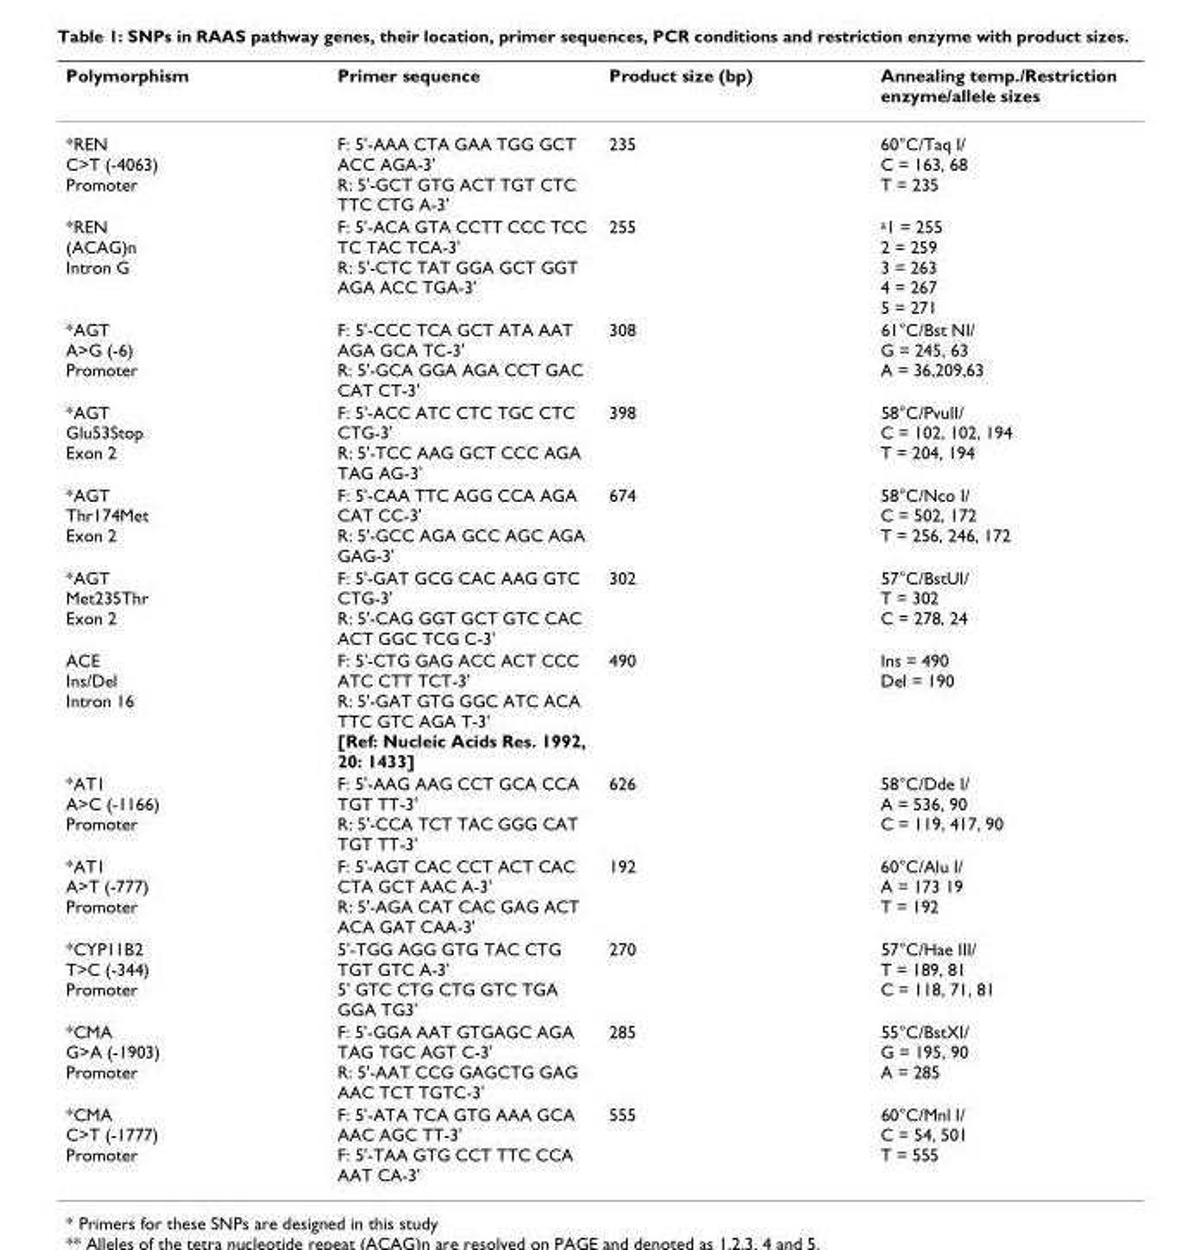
<table><thead><tr><td>Polymorphism</td><td>Primer sequence</td><td>Product size (bp)</td><td>Annealing temp./Restriction enzyme/allele sizes</td></tr></thead><tbody><tr><td>*REN C&gt;T (-4063) Promoter</td><td>F: 5&#x27;-AAA CTA GAA TGG GCT ACC AGA-3&#x27; R: 5&#x27;-GCT GTG ACT TGT CTC TTC CTG A-3&#x27;</td><td>235</td><td>60°C/Taq I/ C = 163, 68 T = 235</td></tr><tr><td>*REN (ACAG)n Intron G</td><td>F: 5&#x27;-ACA GTA CCTT CCC TCC TC TAC TCA-3&#x27; R: 5&#x27;-CTC TAT GGA GCT GGT AGA ACC TGA-3&#x27;</td><td>255</td><td><sup>a</sup>1 = 255 2 = 259 3 = 263 4 = 267 5 = 271</td></tr><tr><td>*AGT A&gt;G (-6) Promoter</td><td>F: 5&#x27;-CCC TCA GCT ATA AAT AGA GCA TC-3&#x27; R: 5&#x27;-GCA GGA AGA CCT GAC CAT CT-3&#x27;</td><td>308</td><td>61°C/Bst NI/ G = 245, 63 A = 36,209,63</td></tr><tr><td>*AGT Glu53Stop Exon 2</td><td>F: 5&#x27;-ACC ATC CTC TGC CTC CTG-3&#x27; R: 5&#x27;-TCC AAG GCT CCC AGA TAG AG-3&#x27;</td><td>398</td><td>58°C/PvuII/ C = 102, 102, 194 T = 204, 194</td></tr><tr><td>*AGT Thr174Met Exon 2</td><td>F: 5&#x27;-CAA TTC AGG CCA AGA CAT CC-3&#x27; R: 5&#x27;-GCC AGA GCC AGC AGA GAG-3&#x27;</td><td>674</td><td>58°C/Nco I/ C = 502, 172 T = 256, 246, 172</td></tr><tr><td>*AGT Met235Thr Exon 2</td><td>F: 5&#x27;-GAT GCG CAC AAG GTC CTG-3&#x27; R: 5&#x27;-CAG GGT GCT GTC CAC ACT GGC TCG C-3&#x27;</td><td>302</td><td>57°C/BstUI/ T = 302 C = 278, 24</td></tr><tr><td>ACE Ins/Del Intron 16</td><td>F: 5&#x27;-CTG GAG ACC ACT CCC ATC CTT TCT-3&#x27; R: 5&#x27;-GAT GTG GGC ATC ACA TTC GTC AGA T-3&#x27; [Ref: Nucleic Acids Res. 1992, 20: 1433]</td><td>490</td><td>Ins = 490 Del = 190</td></tr><tr><td>*AT1 A&gt;C (-1166) Promoter</td><td>F: 5&#x27;-AAG AAG CCT GCA CCA TGT TT-3&#x27; R: 5&#x27;-CCA TCT TAC GGG CAT TGT TT-3&#x27;</td><td>626</td><td>58°C/Dde I/ A = 536, 90 C = 119, 417, 90</td></tr><tr><td>*AT1 A&gt;T (-777) Promoter</td><td>F: 5&#x27;-AGT CAC CCT ACT CAC CTA GCT AAC A-3&#x27; R: 5&#x27;-AGA CAT CAC GAG ACT ACA GAT CAA-3&#x27;</td><td>192</td><td>60°C/Alu I/ A = 173 19 T = 192</td></tr><tr><td>*CYP11B2 T&gt;C (-344) Promoter</td><td>5&#x27;-TGG AGG GTG TAC CTG TGT GTC A-3&#x27; 5&#x27; GTC CTG CTG GTC TGA GGA TG3&#x27;</td><td>270</td><td>57°C/Hae III/ T = 189, 81 C = 118, 71, 81</td></tr><tr><td>*CMA G&gt;A (-1903) Promoter</td><td>F: 5&#x27;-GGA AAT GTGAGC AGA TAG TGC AGT C-3&#x27; R: 5&#x27;-AAT CCG GAGCTG GAG AAC TCT TGTC-3&#x27;</td><td>285</td><td>55°C/BstXI/ G = 195, 90 A = 285</td></tr><tr><td>*CMA C&gt;T (-1777) Promoter</td><td>F: 5&#x27;-ATA TCA GTG AAA GCA AAC AGC TT-3&#x27; F: 5&#x27;-TAA GTG CCT TTC CCA AAT CA-3&#x27;</td><td>555</td><td>60°C/Mnl I/ C = 54, 501 T = 555</td></tr></tbody></table>